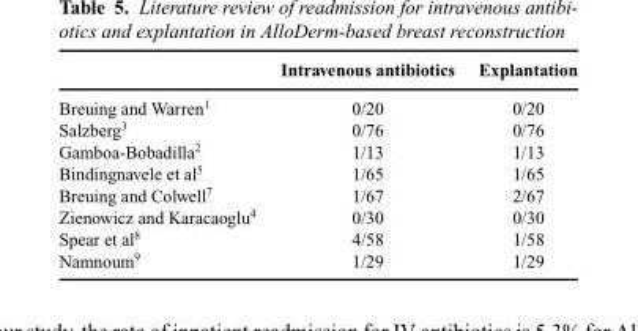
<table><thead><tr><td></td><td>Intravenous antibiotics</td><td>Explantation</td></tr></thead><tbody><tr><td>Breuing and Warren<sup>1</sup></td><td>0/20</td><td>0/20</td></tr><tr><td>Salzberg<sup>3</sup></td><td>0/76</td><td>0/76</td></tr><tr><td>Gamboa-Bobadilla<sup>2</sup></td><td>1/13</td><td>1/13</td></tr><tr><td>Bindingnavele et al<sup>5</sup></td><td>1/65</td><td>1/65</td></tr><tr><td>Breuing and Colwell<sup>7</sup></td><td>1/67</td><td>2/67</td></tr><tr><td>Zienowicz and Karacaoglu<sup>4</sup></td><td>0/30</td><td>0/30</td></tr><tr><td>Spear et al<sup>8</sup></td><td>4/58</td><td>1/58</td></tr><tr><td>Namnoum<sup>9</sup></td><td>1/29</td><td>1/29</td></tr></tbody></table>